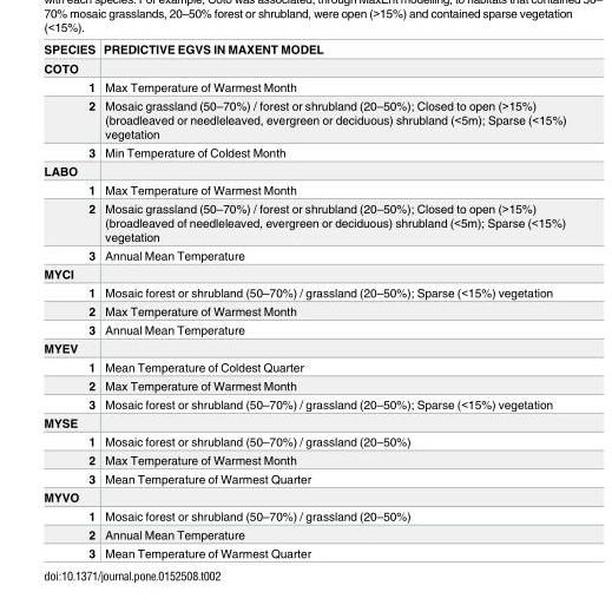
<table><thead><tr><td>SPECIES</td><td>PREDICTIVE EGVS IN MAXENT MODEL</td></tr></thead><tbody><tr><td colspan="2">COTO</td></tr><tr><td>1</td><td>Max Temperature of Warmest Month</td></tr><tr><td>2</td><td>Mosaic grassland (50–70%) / forest or shrubland (20–50%); Closed to open (&gt;15%) (broadleaved or needleleaved, evergreen or deciduous) shrubland (&lt;5m); Sparse (&lt;15%) vegetation</td></tr><tr><td>3</td><td>Min Temperature of Coldest Month</td></tr><tr><td colspan="2">LABO</td></tr><tr><td>1</td><td>Max Temperature of Warmest Month</td></tr><tr><td>2</td><td>Mosaic grassland (50–70%) / forest or shrubland (20–50%); Closed to open (&gt;15%) (broadleaved of needleleaved, evergreen or deciduous) shrubland (&lt;5m); Sparse (&lt;15%) vegetation</td></tr><tr><td>3</td><td>Annual Mean Temperature</td></tr><tr><td colspan="2">MYCI</td></tr><tr><td>1</td><td>Mosaic forest or shrubland (50–70%) / grassland (20–50%); Sparse (&lt;15%) vegetation</td></tr><tr><td>2</td><td>Max Temperature of Warmest Month</td></tr><tr><td>3</td><td>Annual Mean Temperature</td></tr><tr><td colspan="2">MYEV</td></tr><tr><td>1</td><td>Mean Temperature of Coldest Quarter</td></tr><tr><td>2</td><td>Max Temperature of Warmest Month</td></tr><tr><td>3</td><td>Mosaic forest or shrubland (50–70%) / grassland (20–50%); Sparse (&lt;15%) vegetation</td></tr><tr><td colspan="2">MYSE</td></tr><tr><td>1</td><td>Mosaic forest or shrubland (50–70%) / grassland (20–50%)</td></tr><tr><td>2</td><td>Max Temperature of Warmest Month</td></tr><tr><td>3</td><td>Mean Temperature of Warmest Quarter</td></tr><tr><td colspan="2">MYVO</td></tr><tr><td>1</td><td>Mosaic forest or shrubland (50–70%) / grassland (20–50%)</td></tr><tr><td>2</td><td>Annual Mean Temperature</td></tr><tr><td>3</td><td>Mean Temperature of Warmest Quarter</td></tr></tbody></table>